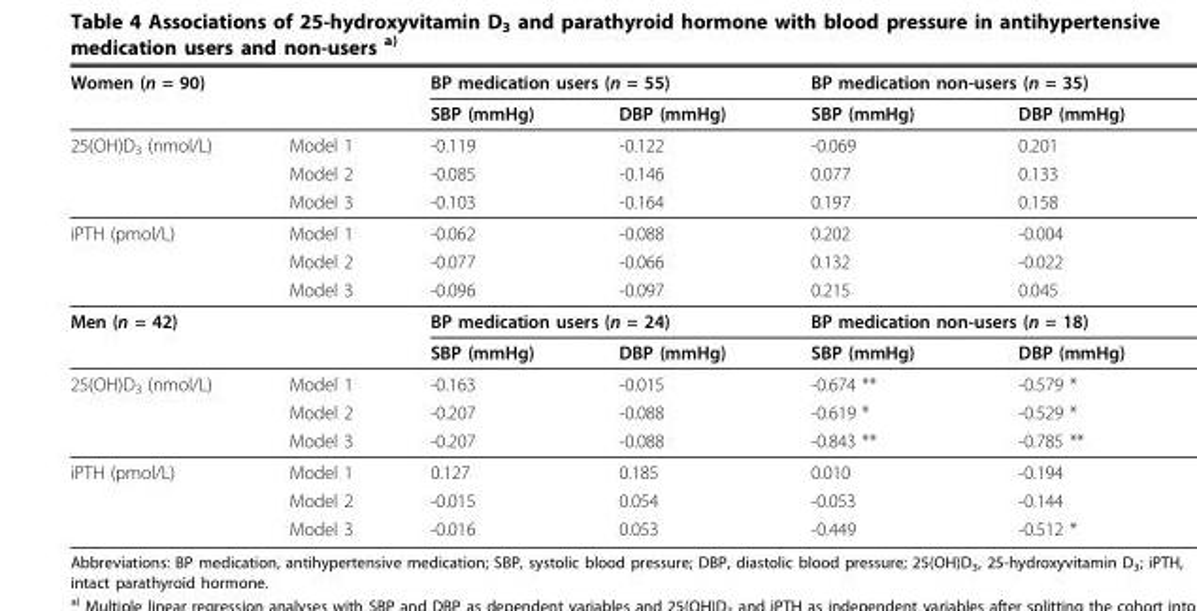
<table><tbody><tr><td rowspan="2">Women (n = 90)</td><td></td><td colspan="2">BP medication users (n = 55)</td><td colspan="2">BP medication non-users (n = 35)</td></tr><tr><td></td><td>SBP (mmHg)</td><td>DBP (mmHg)</td><td>SBP (mmHg)</td><td>DBP (mmHg)</td></tr><tr><td rowspan="3">25(OH)D<sub>3</sub> (nmol/L)</td><td>Model 1</td><td>-0.119</td><td>-0.122</td><td>-0.069</td><td>0.201</td></tr><tr><td>Model 2</td><td>-0.085</td><td>-0.146</td><td>0.077</td><td>0.133</td></tr><tr><td>Model 3</td><td>-0.103</td><td>-0.164</td><td>0.197</td><td>0.158</td></tr><tr><td rowspan="3">iPTH (pmol/L)</td><td>Model 1</td><td>-0.062</td><td>-0.088</td><td>0.202</td><td>-0.004</td></tr><tr><td>Model 2</td><td>-0.077</td><td>-0.066</td><td>0.132</td><td>-0.022</td></tr><tr><td>Model 3</td><td>-0.096</td><td>-0.097</td><td>0.215</td><td>0.045</td></tr><tr><td rowspan="2">Men (n = 42)</td><td></td><td colspan="2">BP medication users (n = 24)</td><td colspan="2">BP medication non-users (n = 18)</td></tr><tr><td></td><td>SBP (mmHg)</td><td>DBP (mmHg)</td><td>SBP (mmHg)</td><td>DBP (mmHg)</td></tr><tr><td rowspan="3">25(OH)D<sub>3</sub> (nmol/L)</td><td>Model 1</td><td>-0.163</td><td>-0.015</td><td>-0.674 **</td><td>-0.579 *</td></tr><tr><td>Model 2</td><td>-0.207</td><td>-0.088</td><td>-0.619 *</td><td>-0.529 *</td></tr><tr><td>Model 3</td><td>-0.207</td><td>-0.088</td><td>-0.843 **</td><td>-0.785 **</td></tr><tr><td rowspan="3">iPTH (pmol/L)</td><td>Model 1</td><td>0.127</td><td>0.185</td><td>0.010</td><td>-0.194</td></tr><tr><td>Model 2</td><td>-0.015</td><td>0.054</td><td>-0.053</td><td>-0.144</td></tr><tr><td>Model 3</td><td>-0.016</td><td>0.053</td><td>-0.449</td><td>-0.512 *</td></tr></tbody></table>